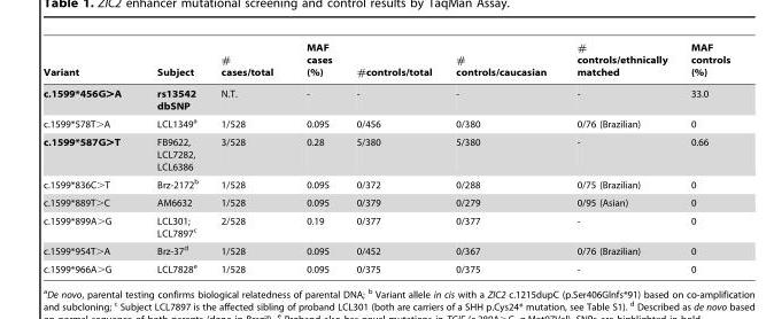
<table><thead><tr><td>Variant</td><td>Subject</td><td># cases/total</td><td>MAF cases (%)</td><td>#controls/total</td><td># controls/caucasian</td><td># controls/ethnically matched</td><td>MAF controls (%)</td></tr></thead><tbody><tr><td>c.1599*456G&gt;A</td><td>rs13542 dbSNP</td><td>N.T.</td><td>-</td><td>-</td><td>-</td><td>-</td><td>33.0</td></tr><tr><td>c.1599*578T&gt;A</td><td>LCL1349<sup>a</sup></td><td>1/528</td><td>0.095</td><td>0/456</td><td>0/380</td><td>0/76 (Brazilian)</td><td>0</td></tr><tr><td>c.1599*587G&gt;T</td><td>FB9622, LCL7282, LCL6386</td><td>3/528</td><td>0.28</td><td>5/380</td><td>5/380</td><td>-</td><td>0.66</td></tr><tr><td>c.1599*836C&gt;T</td><td>Brz-2172<sup>b</sup></td><td>1/528</td><td>0.095</td><td>0/372</td><td>0/288</td><td>0/75 (Brazilian)</td><td>0</td></tr><tr><td>c.1599*889T&gt;C</td><td>AM6632</td><td>1/528</td><td>0.095</td><td>0/379</td><td>0/279</td><td>0/95 (Asian)</td><td>0</td></tr><tr><td>c.1599*899A&gt;G</td><td>LCL301; LCL7897<sup>c</sup></td><td>2/528</td><td>0.19</td><td>0/377</td><td>0/377</td><td>-</td><td>0</td></tr><tr><td>c.1599*954T&gt;A</td><td>Brz-37<sup>d</sup></td><td>1/528</td><td>0.095</td><td>0/452</td><td>0/367</td><td>0/76 (Brazilian)</td><td>0</td></tr><tr><td>c.1599*966A&gt;G</td><td>LCL7828<sup>e</sup></td><td>1/528</td><td>0.095</td><td>0/375</td><td>0/375</td><td>-</td><td>0</td></tr></tbody></table>